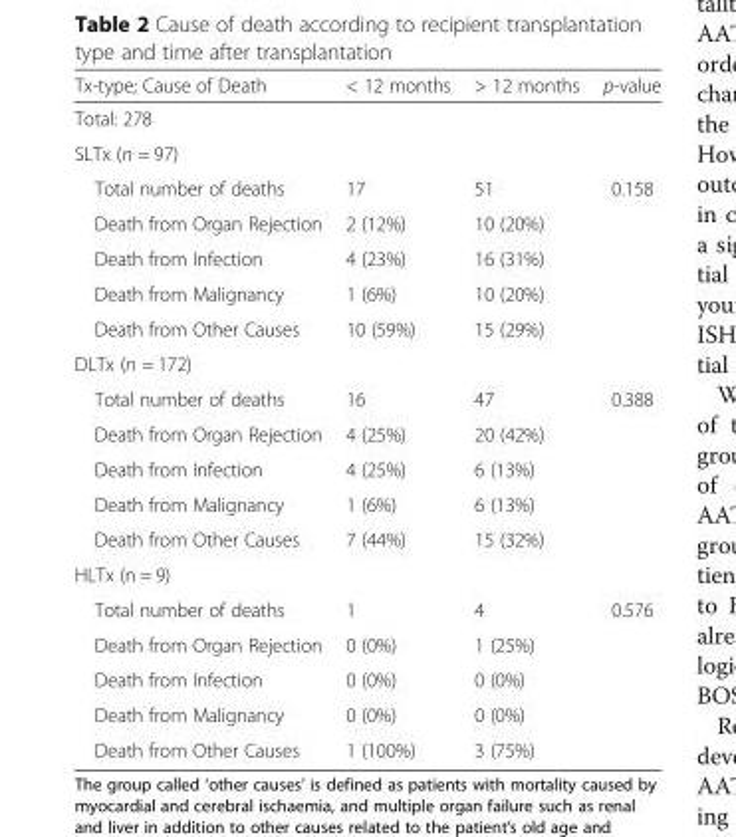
<table><thead><tr><td>Tx-type; Cause of Death</td><td>&lt; 12 months</td><td>&gt; 12 months</td><td>p-value</td></tr></thead><tbody><tr><td colspan="4">Total: 278</td></tr><tr><td colspan="4">SLTx (n = 97)</td></tr><tr><td>Total number of deaths</td><td>17</td><td>51</td><td>0.158</td></tr><tr><td>Death from Organ Rejection</td><td>2 (12%)</td><td>10 (20%)</td><td></td></tr><tr><td>Death from Infection</td><td>4 (23%)</td><td>16 (31%)</td><td></td></tr><tr><td>Death from Malignancy</td><td>1 (6%)</td><td>10 (20%)</td><td></td></tr><tr><td>Death from Other Causes</td><td>10 (59%)</td><td>15 (29%)</td><td></td></tr><tr><td colspan="4">DLTx (n = 172)</td></tr><tr><td>Total number of deaths</td><td>16</td><td>47</td><td>0.388</td></tr><tr><td>Death from Organ Rejection</td><td>4 (25%)</td><td>20 (42%)</td><td></td></tr><tr><td>Death from Infection</td><td>4 (25%)</td><td>6 (13%)</td><td></td></tr><tr><td>Death from Malignancy</td><td>1 (6%)</td><td>6 (13%)</td><td></td></tr><tr><td>Death from Other Causes</td><td>7 (44%)</td><td>15 (32%)</td><td></td></tr><tr><td colspan="4">HLTx (n = 9)</td></tr><tr><td>Total number of deaths</td><td>1</td><td>4</td><td>0.576</td></tr><tr><td>Death from Organ Rejection</td><td>0 (0%)</td><td>1 (25%)</td><td></td></tr><tr><td>Death from Infection</td><td>0 (0%)</td><td>0 (0%)</td><td></td></tr><tr><td>Death from Malignancy</td><td>0 (0%)</td><td>0 (0%)</td><td></td></tr><tr><td>Death from Other Causes</td><td>1 (100%)</td><td>3 (75%)</td><td></td></tr></tbody></table>